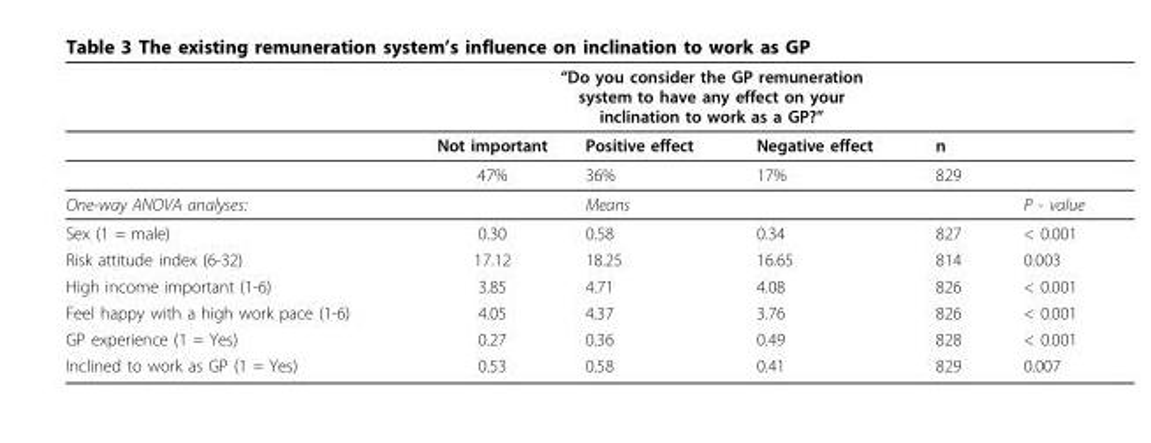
<table><thead><tr><td rowspan="2"></td><td colspan="4">“Do you consider the GP remuneration system to have any effect on your inclination to work as a GP?”</td><td rowspan="2"></td></tr><tr><td>Not important</td><td>Positive effect</td><td>Negative effect</td><td>n</td></tr></thead><tbody><tr><td></td><td>47%</td><td>36%</td><td>17%</td><td>829</td><td></td></tr><tr><td>One-way ANOVA analyses:</td><td></td><td>Means</td><td></td><td></td><td>P - value</td></tr><tr><td>Sex (1 = male)</td><td>0.30</td><td>0.58</td><td>0.34</td><td>827</td><td>&lt; 0.001</td></tr><tr><td>Risk attitude index (6-32)</td><td>17.12</td><td>18.25</td><td>16.65</td><td>814</td><td>0.003</td></tr><tr><td>High income important (1-6)</td><td>3.85</td><td>4.71</td><td>4.08</td><td>826</td><td>&lt; 0.001</td></tr><tr><td>Feel happy with a high work pace (1-6)</td><td>4.05</td><td>4.37</td><td>3.76</td><td>826</td><td>&lt; 0.001</td></tr><tr><td>GP experience (1 = Yes)</td><td>0.27</td><td>0.36</td><td>0.49</td><td>828</td><td>&lt; 0.001</td></tr><tr><td>Inclined to work as GP (1 = Yes)</td><td>0.53</td><td>0.58</td><td>0.41</td><td>829</td><td>0.007</td></tr></tbody></table>